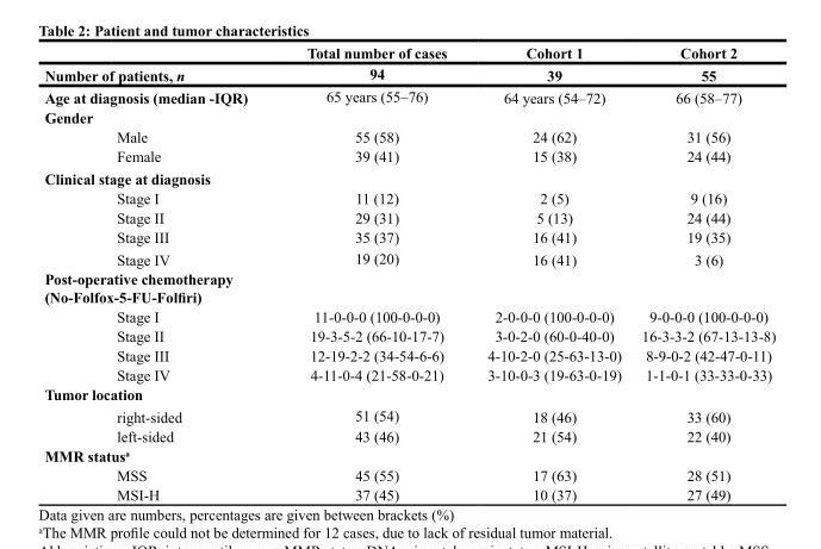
<table><thead><tr><td></td><td></td><td>Total number of cases</td><td>Cohort 1</td><td>Cohort 2</td></tr></thead><tbody><tr><td colspan="2">Number of patients, n</td><td>94</td><td>39</td><td>55</td></tr><tr><td colspan="2">Age at diagnosis (median -IQR)</td><td>65 years (55–76)</td><td>64 years (54–72)</td><td>66 (58–77)</td></tr><tr><td colspan="5">Gender</td></tr><tr><td></td><td>Male</td><td>55 (58)</td><td>24 (62)</td><td>31 (56)</td></tr><tr><td></td><td>Female</td><td>39 (41)</td><td>15 (38)</td><td>24 (44)</td></tr><tr><td colspan="5">Clinical stage at diagnosis</td></tr><tr><td></td><td>Stage I</td><td>11 (12)</td><td>2 (5)</td><td>9 (16)</td></tr><tr><td></td><td>Stage II</td><td>29 (31)</td><td>5 (13)</td><td>24 (44)</td></tr><tr><td></td><td>Stage III</td><td>35 (37)</td><td>16 (41)</td><td>19 (35)</td></tr><tr><td></td><td>Stage IV</td><td>19 (20)</td><td>16 (41)</td><td>3 (6)</td></tr><tr><td colspan="5">Post-operative chemotherapy (No-Folfox-5-FU-Folfiri)</td></tr><tr><td></td><td>Stage I</td><td>11-0-0-0 (100-0-0-0)</td><td>2-0-0-0 (100-0-0-0)</td><td>9-0-0-0 (100-0-0-0)</td></tr><tr><td></td><td>Stage II</td><td>19-3-5-2 (66-10-17-7)</td><td>3-0-2-0 (60-0-40-0)</td><td>16-3-3-2 (67-13-13-8)</td></tr><tr><td></td><td>Stage III</td><td>12-19-2-2 (34-54-6-6)</td><td>4-10-2-0 (25-63-13-0)</td><td>8-9-0-2 (42-47-0-11)</td></tr><tr><td></td><td>Stage IV</td><td>4-11-0-4 (21-58-0-21)</td><td>3-10-0-3 (19-63-0-19)</td><td>1-1-0-1 (33-33-0-33)</td></tr><tr><td colspan="5">Tumor location</td></tr><tr><td></td><td>right-sided</td><td>51 (54)</td><td>18 (46)</td><td>33 (60)</td></tr><tr><td></td><td>left-sided</td><td>43 (46)</td><td>21 (54)</td><td>22 (40)</td></tr><tr><td colspan="5">MMR status<sup>a</sup></td></tr><tr><td></td><td>MSS</td><td>45 (55)</td><td>17 (63)</td><td>28 (51)</td></tr><tr><td></td><td>MSI-H</td><td>37 (45)</td><td>10 (37)</td><td>27 (49)</td></tr></tbody></table>